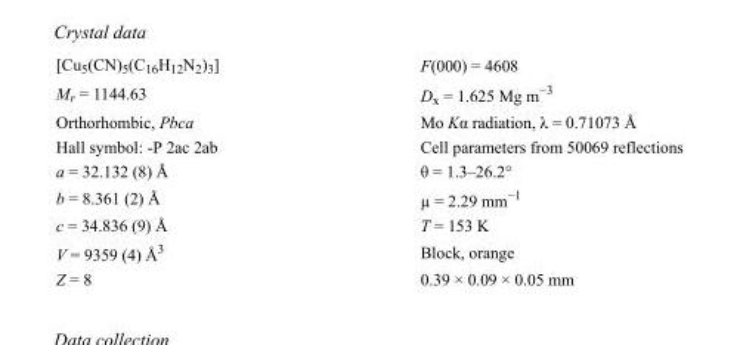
<table><tbody><tr><td>[Cu<sub>5</sub>(CN)<sub>5</sub>(C<sub>16</sub>H<sub>12</sub>N<sub>2</sub>)<sub>3</sub>]</td><td>F(000) = 4608</td></tr><tr><td>M<sub>r</sub> = 1144.63</td><td>D<sub>x</sub> = 1.625 Mg m<sup>−3</sup></td></tr><tr><td>Orthorhombic, Pbca</td><td>Mo Kα radiation, λ = 0.71073 Å</td></tr><tr><td>Hall symbol: -P 2ac 2ab</td><td>Cell parameters from 50069 reflections</td></tr><tr><td>a = 32.132 (8) Å</td><td>θ = 1.3–26.2°</td></tr><tr><td>b = 8.361 (2) Å</td><td>µ = 2.29 mm<sup>−1</sup></td></tr><tr><td>c = 34.836 (9) Å</td><td>T = 153 K</td></tr><tr><td>V = 9359 (4) Å<sup>3</sup></td><td>Block, orange</td></tr><tr><td>Z = 8</td><td>0.39 × 0.09 × 0.05 mm</td></tr></tbody></table>